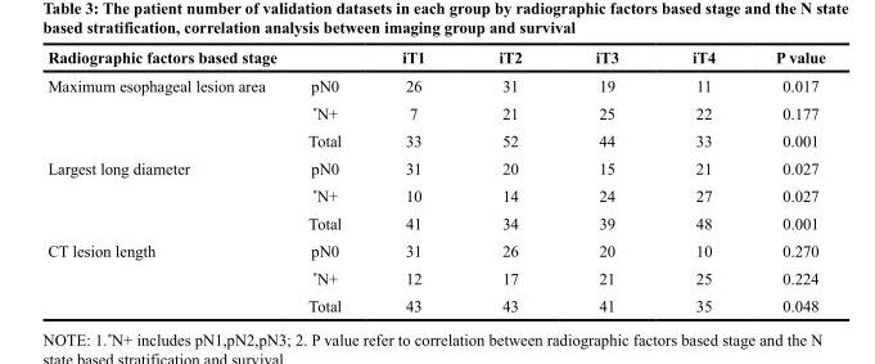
<table><thead><tr><td>Radiographic factors based stage</td><td></td><td>iT1</td><td>iT2</td><td>iT3</td><td>iT4</td><td>P value</td></tr></thead><tbody><tr><td rowspan="3">Maximum esophageal lesion area</td><td>pN0</td><td>26</td><td>31</td><td>19</td><td>11</td><td>0.017</td></tr><tr><td>*N+</td><td>7</td><td>21</td><td>25</td><td>22</td><td>0.177</td></tr><tr><td>Total</td><td>33</td><td>52</td><td>44</td><td>33</td><td>0.001</td></tr><tr><td rowspan="3">Largest long diameter</td><td>pN0</td><td>31</td><td>20</td><td>15</td><td>21</td><td>0.027</td></tr><tr><td>*N+</td><td>10</td><td>14</td><td>24</td><td>27</td><td>0.027</td></tr><tr><td>Total</td><td>41</td><td>34</td><td>39</td><td>48</td><td>0.001</td></tr><tr><td rowspan="3">CT lesion length</td><td>pN0</td><td>31</td><td>26</td><td>20</td><td>10</td><td>0.270</td></tr><tr><td>*N+</td><td>12</td><td>17</td><td>21</td><td>25</td><td>0.224</td></tr><tr><td>Total</td><td>43</td><td>43</td><td>41</td><td>35</td><td>0.048</td></tr></tbody></table>